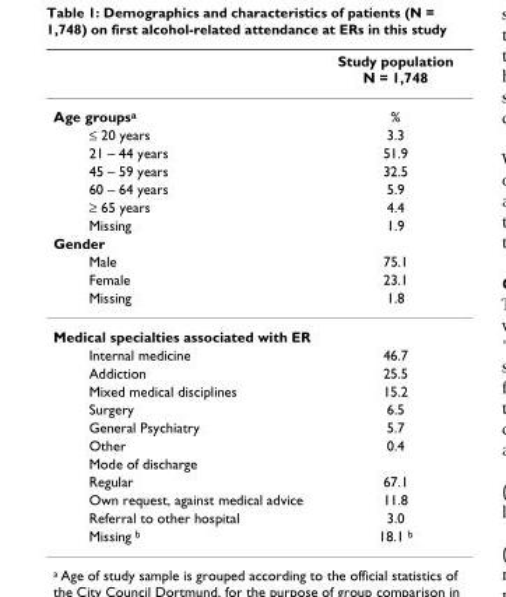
<table><thead><tr><td></td><td>Study population N = 1,748</td></tr></thead><tbody><tr><td>Age groups<sup>a</sup></td><td>%</td></tr><tr><td>≤ 20 years</td><td>3.3</td></tr><tr><td>21 – 44 years</td><td>51.9</td></tr><tr><td>45 – 59 years</td><td>32.5</td></tr><tr><td>60 – 64 years</td><td>5.9</td></tr><tr><td>≥ 65 years</td><td>4.4</td></tr><tr><td>Missing</td><td>1.9</td></tr><tr><td colspan="2">Gender</td></tr><tr><td>Male</td><td>75.1</td></tr><tr><td>Female</td><td>23.1</td></tr><tr><td>Missing</td><td>1.8</td></tr><tr><td colspan="2">Medical specialties associated with ER</td></tr><tr><td>Internal medicine</td><td>46.7</td></tr><tr><td>Addiction</td><td>25.5</td></tr><tr><td>Mixed medical disciplines</td><td>15.2</td></tr><tr><td>Surgery</td><td>6.5</td></tr><tr><td>General Psychiatry</td><td>5.7</td></tr><tr><td>Other</td><td>0.4</td></tr><tr><td colspan="2">Mode of discharge</td></tr><tr><td>Regular</td><td>67.1</td></tr><tr><td>Own request, against medical advice</td><td>11.8</td></tr><tr><td>Referral to other hospital</td><td>3.0</td></tr><tr><td>Missing <sup>b</sup></td><td>18.1 <sup>b</sup></td></tr></tbody></table>